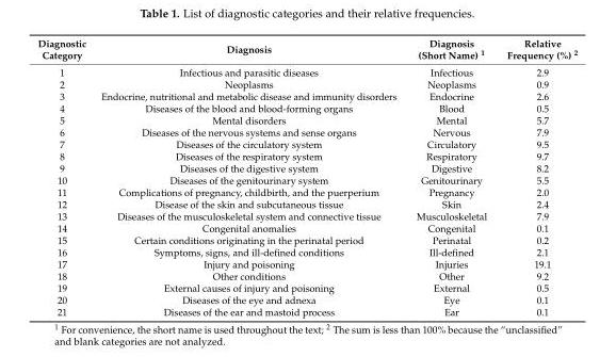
<table><thead><tr><td>Diagnostic Category</td><td>Diagnosis</td><td>Diagnosis (Short Name) <sup>1</sup></td><td>Relative Frequency (%) <sup>2</sup></td></tr></thead><tbody><tr><td>1</td><td>Infectious and parasitic diseases</td><td>Infectious</td><td>2.9</td></tr><tr><td>2</td><td>Neoplasms</td><td>Neoplasms</td><td>0.9</td></tr><tr><td>3</td><td>Endocrine, nutritional and metabolic disease and immunity disorders</td><td>Endocrine</td><td>2.6</td></tr><tr><td>4</td><td>Diseases of the blood and blood-forming organs</td><td>Blood</td><td>0.5</td></tr><tr><td>5</td><td>Mental disorders</td><td>Mental</td><td>5.7</td></tr><tr><td>6</td><td>Diseases of the nervous systems and sense organs</td><td>Nervous</td><td>7.9</td></tr><tr><td>7</td><td>Diseases of the circulatory system</td><td>Circulatory</td><td>9.5</td></tr><tr><td>8</td><td>Diseases of the respiratory system</td><td>Respiratory</td><td>9.7</td></tr><tr><td>9</td><td>Diseases of the digestive system</td><td>Digestive</td><td>8.2</td></tr><tr><td>10</td><td>Diseases of the genitourinary system</td><td>Genitourinary</td><td>5.5</td></tr><tr><td>11</td><td>Complications of pregnancy, childbirth, and the puerperium</td><td>Pregnancy</td><td>2.0</td></tr><tr><td>12</td><td>Disease of the skin and subcutaneous tissue</td><td>Skin</td><td>2.4</td></tr><tr><td>13</td><td>Diseases of the musculoskeletal system and connective tissue</td><td>Musculoskeletal</td><td>7.9</td></tr><tr><td>14</td><td>Congenital anomalies</td><td>Congenital</td><td>0.1</td></tr><tr><td>15</td><td>Certain conditions originating in the perinatal period</td><td>Perinatal</td><td>0.2</td></tr><tr><td>16</td><td>Symptoms, signs, and ill-defined conditions</td><td>Ill-defined</td><td>2.1</td></tr><tr><td>17</td><td>Injury and poisoning</td><td>Injuries</td><td>19.1</td></tr><tr><td>18</td><td>Other conditions</td><td>Other</td><td>9.2</td></tr><tr><td>19</td><td>External causes of injury and poisoning</td><td>External</td><td>0.5</td></tr><tr><td>20</td><td>Diseases of the eye and adnexa</td><td>Eye</td><td>0.1</td></tr><tr><td>21</td><td>Diseases of the ear and mastoid process</td><td>Ear</td><td>0.1</td></tr></tbody></table>